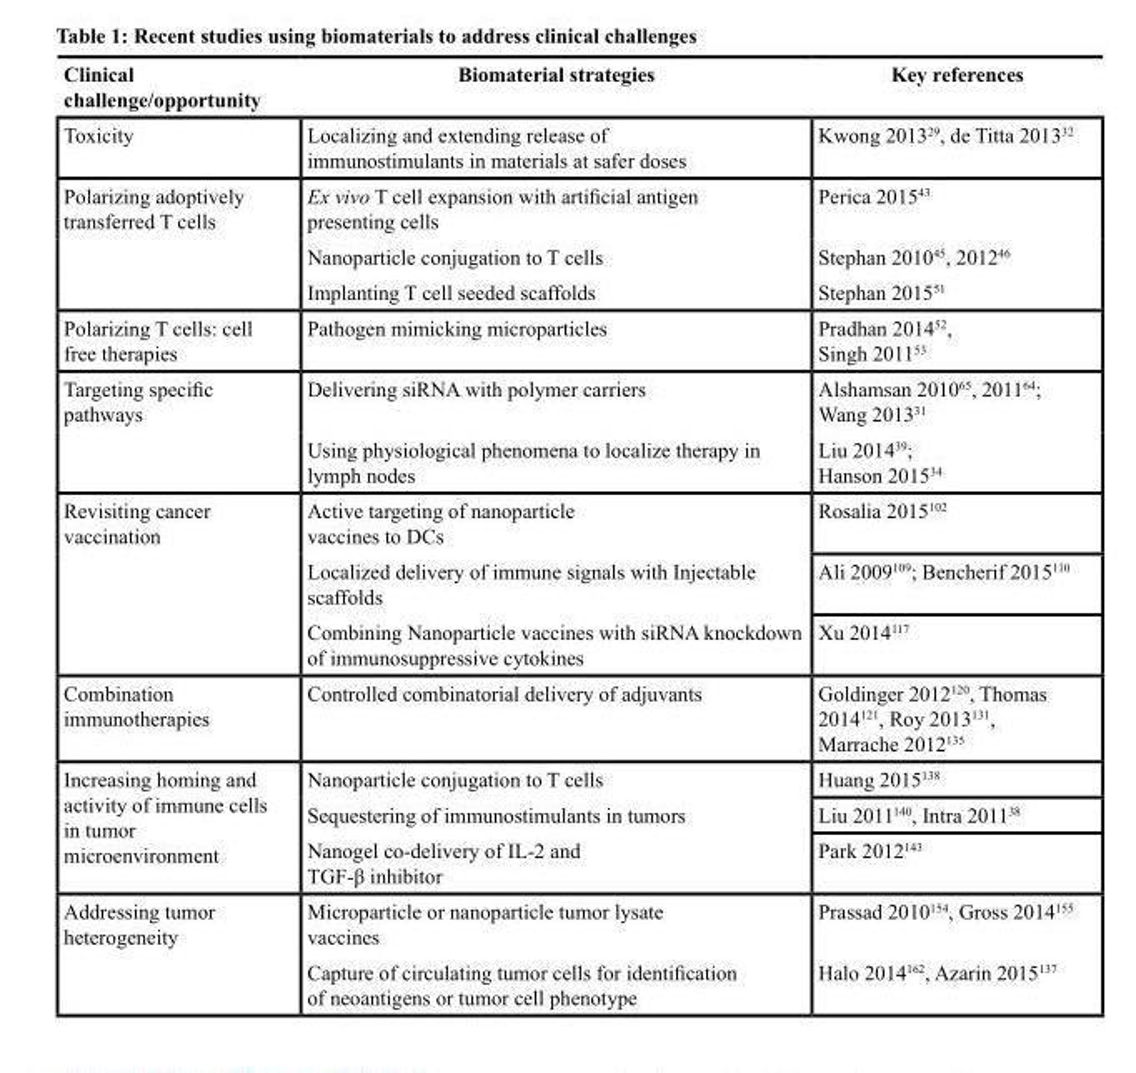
<table><thead><tr><td>Clinical challenge/opportunity</td><td>Biomaterial strategies</td><td>Key references</td></tr></thead><tbody><tr><td>Toxicity</td><td>Localizing and extending release of immunostimulants in materials at safer doses</td><td>Kwong 2013<sup>29</sup>, de Titta 2013<sup>32</sup></td></tr><tr><td rowspan="3">Polarizing adoptively transferred T cells</td><td>Ex vivo T cell expansion with artificial antigen presenting cells</td><td>Perica 2015<sup>43</sup></td></tr><tr><td>Nanoparticle conjugation to T cells</td><td>Stephan 2010<sup>45</sup>, 2012<sup>46</sup></td></tr><tr><td>Implanting T cell seeded scaffolds</td><td>Stephan 2015<sup>51</sup></td></tr><tr><td>Polarizing T cells: cell free therapies</td><td>Pathogen mimicking microparticles</td><td>Pradhan 2014<sup>52</sup>, Singh 2011<sup>53</sup></td></tr><tr><td rowspan="2">Targeting specific pathways</td><td>Delivering siRNA with polymer carriers</td><td>Alshamsan 2010<sup>65</sup>, 2011<sup>64</sup>; Wang 2013<sup>31</sup></td></tr><tr><td>Using physiological phenomena to localize therapy in lymph nodes</td><td>Liu 2014<sup>39</sup>; Hanson 2015<sup>34</sup></td></tr><tr><td rowspan="3">Revisiting cancer vaccination</td><td>Active targeting of nanoparticle vaccines to DCs</td><td>Rosalia 2015<sup>102</sup></td></tr><tr><td>Localized delivery of immune signals with Injectable scaffolds</td><td>Ali 2009<sup>109</sup>; Bencherif 2015<sup>110</sup></td></tr><tr><td>Combining Nanoparticle vaccines with siRNA knockdown of immunosuppressive cytokines</td><td>Xu 2014<sup>117</sup></td></tr><tr><td>Combination immunotherapies</td><td>Controlled combinatorial delivery of adjuvants</td><td>Goldinger 2012<sup>120</sup>, Thomas 2014<sup>121</sup>, Roy 2013<sup>131</sup>, Marrache 2012<sup>135</sup></td></tr><tr><td rowspan="3">Increasing homing and activity of immune cells in tumor microenvironment</td><td>Nanoparticle conjugation to T cells</td><td>Huang 2015<sup>138</sup></td></tr><tr><td>Sequestering of immunostimulants in tumors</td><td>Liu 2011<sup>140</sup>, Intra 2011<sup>38</sup></td></tr><tr><td>Nanogel co-delivery of IL-2 and TGF-β inhibitor</td><td>Park 2012<sup>143</sup></td></tr><tr><td rowspan="2">Addressing tumor heterogeneity</td><td>Microparticle or nanoparticle tumor lysate vaccines</td><td>Prassad 2010<sup>154</sup>, Gross 2014<sup>155</sup></td></tr><tr><td>Capture of circulating tumor cells for identification of neoantigens or tumor cell phenotype</td><td>Halo 2014<sup>162</sup>, Azarin 2015<sup>137</sup></td></tr></tbody></table>